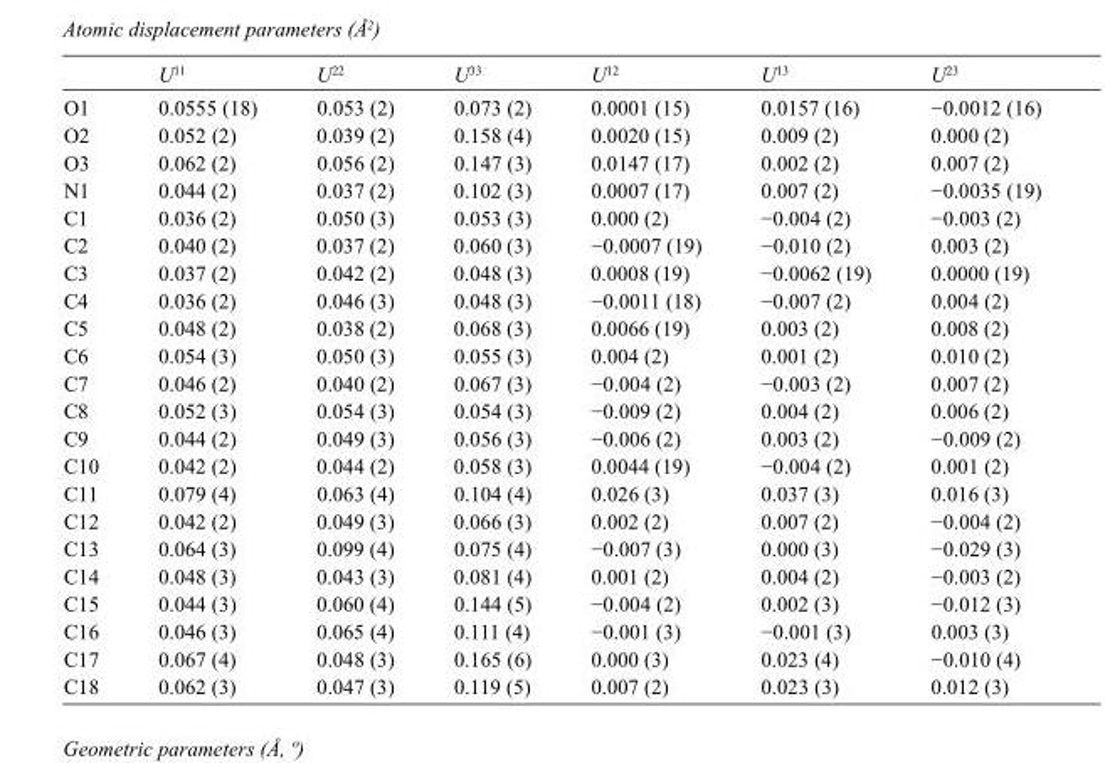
<table><thead><tr><td></td><td>U<sup>11</sup></td><td>U<sup>22</sup></td><td>U<sup>33</sup></td><td>U<sup>12</sup></td><td>U<sup>13</sup></td><td>U<sup>23</sup></td></tr></thead><tbody><tr><td>O1</td><td>0.0555 (18)</td><td>0.053 (2)</td><td>0.073 (2)</td><td>0.0001 (15)</td><td>0.0157 (16)</td><td>−0.0012 (16)</td></tr><tr><td>O2</td><td>0.052 (2)</td><td>0.039 (2)</td><td>0.158 (4)</td><td>0.0020 (15)</td><td>0.009 (2)</td><td>0.000 (2)</td></tr><tr><td>O3</td><td>0.062 (2)</td><td>0.056 (2)</td><td>0.147 (3)</td><td>0.0147 (17)</td><td>0.002 (2)</td><td>0.007 (2)</td></tr><tr><td>N1</td><td>0.044 (2)</td><td>0.037 (2)</td><td>0.102 (3)</td><td>0.0007 (17)</td><td>0.007 (2)</td><td>−0.0035 (19)</td></tr><tr><td>C1</td><td>0.036 (2)</td><td>0.050 (3)</td><td>0.053 (3)</td><td>0.000 (2)</td><td>−0.004 (2)</td><td>−0.003 (2)</td></tr><tr><td>C2</td><td>0.040 (2)</td><td>0.037 (2)</td><td>0.060 (3)</td><td>−0.0007 (19)</td><td>−0.010 (2)</td><td>0.003 (2)</td></tr><tr><td>C3</td><td>0.037 (2)</td><td>0.042 (2)</td><td>0.048 (3)</td><td>0.0008 (19)</td><td>−0.0062 (19)</td><td>0.0000 (19)</td></tr><tr><td>C4</td><td>0.036 (2)</td><td>0.046 (3)</td><td>0.048 (3)</td><td>−0.0011 (18)</td><td>−0.007 (2)</td><td>0.004 (2)</td></tr><tr><td>C5</td><td>0.048 (2)</td><td>0.038 (2)</td><td>0.068 (3)</td><td>0.0066 (19)</td><td>0.003 (2)</td><td>0.008 (2)</td></tr><tr><td>C6</td><td>0.054 (3)</td><td>0.050 (3)</td><td>0.055 (3)</td><td>0.004 (2)</td><td>0.001 (2)</td><td>0.010 (2)</td></tr><tr><td>C7</td><td>0.046 (2)</td><td>0.040 (2)</td><td>0.067 (3)</td><td>−0.004 (2)</td><td>−0.003 (2)</td><td>0.007 (2)</td></tr><tr><td>C8</td><td>0.052 (3)</td><td>0.054 (3)</td><td>0.054 (3)</td><td>−0.009 (2)</td><td>0.004 (2)</td><td>0.006 (2)</td></tr><tr><td>C9</td><td>0.044 (2)</td><td>0.049 (3)</td><td>0.056 (3)</td><td>−0.006 (2)</td><td>0.003 (2)</td><td>−0.009 (2)</td></tr><tr><td>C10</td><td>0.042 (2)</td><td>0.044 (2)</td><td>0.058 (3)</td><td>0.0044 (19)</td><td>−0.004 (2)</td><td>0.001 (2)</td></tr><tr><td>C11</td><td>0.079 (4)</td><td>0.063 (4)</td><td>0.104 (4)</td><td>0.026 (3)</td><td>0.037 (3)</td><td>0.016 (3)</td></tr><tr><td>C12</td><td>0.042 (2)</td><td>0.049 (3)</td><td>0.066 (3)</td><td>0.002 (2)</td><td>0.007 (2)</td><td>−0.004 (2)</td></tr><tr><td>C13</td><td>0.064 (3)</td><td>0.099 (4)</td><td>0.075 (4)</td><td>−0.007 (3)</td><td>0.000 (3)</td><td>−0.029 (3)</td></tr><tr><td>C14</td><td>0.048 (3)</td><td>0.043 (3)</td><td>0.081 (4)</td><td>0.001 (2)</td><td>0.004 (2)</td><td>−0.003 (2)</td></tr><tr><td>C15</td><td>0.044 (3)</td><td>0.060 (4)</td><td>0.144 (5)</td><td>−0.004 (2)</td><td>0.002 (3)</td><td>−0.012 (3)</td></tr><tr><td>C16</td><td>0.046 (3)</td><td>0.065 (4)</td><td>0.111 (4)</td><td>−0.001 (3)</td><td>−0.001 (3)</td><td>0.003 (3)</td></tr><tr><td>C17</td><td>0.067 (4)</td><td>0.048 (3)</td><td>0.165 (6)</td><td>0.000 (3)</td><td>0.023 (4)</td><td>−0.010 (4)</td></tr><tr><td>C18</td><td>0.062 (3)</td><td>0.047 (3)</td><td>0.119 (5)</td><td>0.007 (2)</td><td>0.023 (3)</td><td>0.012 (3)</td></tr></tbody></table>